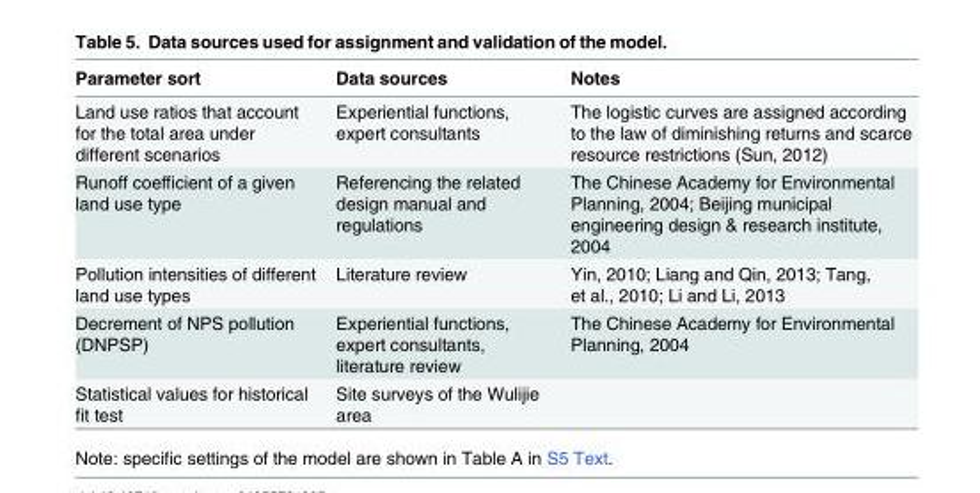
<table><thead><tr><td>Parameter sort</td><td>Data sources</td><td>Notes</td></tr></thead><tbody><tr><td>Land use ratios that account for the total area under different scenarios</td><td>Experiential functions, expert consultants</td><td>The logistic curves are assigned according to the law of diminishing returns and scarce resource restrictions (Sun, 2012)</td></tr><tr><td>Runoff coefficient of a given land use type</td><td>Referencing the related design manual and regulations</td><td>The Chinese Academy for Environmental Planning, 2004; Beijing municipal engineering design &amp; research institute, 2004</td></tr><tr><td>Pollution intensities of different land use types</td><td>Literature review</td><td>Yin, 2010; Liang and Qin, 2013; Tang, et al., 2010; Li and Li, 2013</td></tr><tr><td>Decrement of NPS pollution (DNPSP)</td><td>Experiential functions, expert consultants, literature review</td><td>The Chinese Academy for Environmental Planning, 2004</td></tr><tr><td>Statistical values for historical fit test</td><td>Site surveys of the Wulijie area</td><td></td></tr></tbody></table>